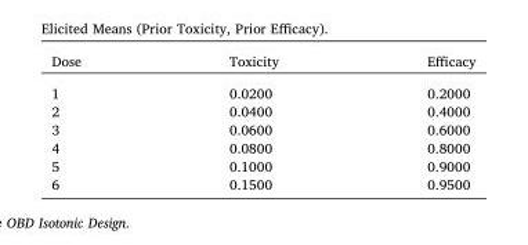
<table><thead><tr><td>Dose</td><td>Toxicity</td><td>Efficacy</td></tr></thead><tbody><tr><td>1</td><td>0.0200</td><td>0.2000</td></tr><tr><td>2</td><td>0.0400</td><td>0.4000</td></tr><tr><td>3</td><td>0.0600</td><td>0.6000</td></tr><tr><td>4</td><td>0.0800</td><td>0.8000</td></tr><tr><td>5</td><td>0.1000</td><td>0.9000</td></tr><tr><td>6</td><td>0.1500</td><td>0.9500</td></tr></tbody></table>